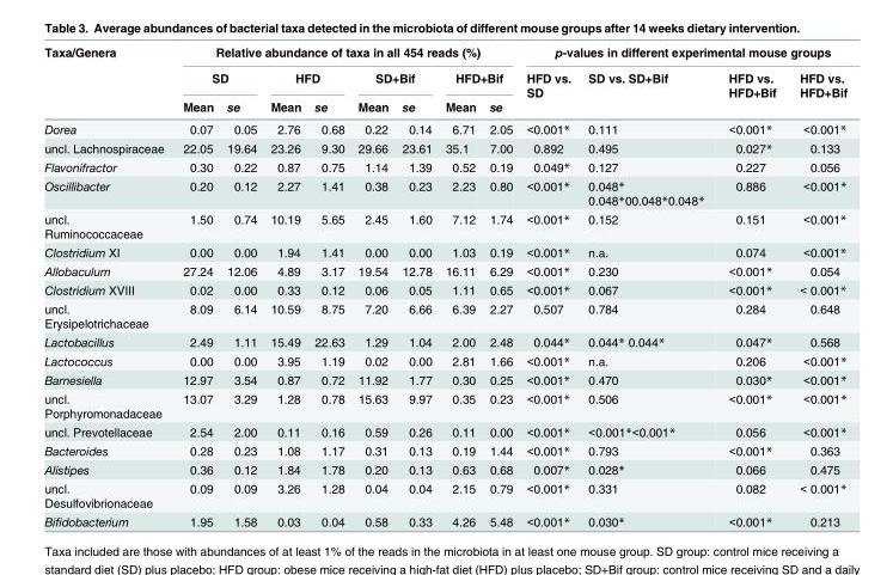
<table><thead><tr><td rowspan="3">Taxa/Genera</td><td colspan="8">Relative abundance of taxa in all 454 reads (%)</td><td colspan="4">p-values in different experimental mouse groups</td></tr><tr><td colspan="2">SD</td><td colspan="2">HFD</td><td colspan="2">SD+Bif</td><td colspan="2">HFD+Bif</td><td rowspan="2">HFD vs. SD</td><td rowspan="2">SD vs. SD+Bif</td><td rowspan="2">HFD vs. HFD+Bif</td><td rowspan="2">HFD vs. HFD+Bif</td></tr><tr><td>Mean</td><td>se</td><td>Mean</td><td>se</td><td>Mean</td><td>se</td><td>Mean</td><td>se</td></tr></thead><tbody><tr><td>Dorea</td><td>0.07</td><td>0.05</td><td>2.76</td><td>0.68</td><td>0.22</td><td>0.14</td><td>6.71</td><td>2.05</td><td>&lt;0.001*</td><td>0.111</td><td>&lt;0.001*</td><td>&lt;0.001*</td></tr><tr><td>uncl. Lachnospiraceae</td><td>22.05</td><td>19.64</td><td>23.26</td><td>9.30</td><td>29.66</td><td>23.61</td><td>35.1</td><td>7.00</td><td>0.892</td><td>0.495</td><td>0.027*</td><td>0.133</td></tr><tr><td>Flavonifractor</td><td>0.30</td><td>0.22</td><td>0.87</td><td>0.75</td><td>1.14</td><td>1.39</td><td>0.52</td><td>0.19</td><td>0.049*</td><td>0.127</td><td>0.227</td><td>0.056</td></tr><tr><td>Oscillibacter</td><td>0.20</td><td>0.12</td><td>2.27</td><td>1.41</td><td>0.38</td><td>0.23</td><td>2.23</td><td>0.80</td><td>&lt;0.001*</td><td>0.048* 0.048*00.048*0.048*</td><td>0.886</td><td>&lt;0.001*</td></tr><tr><td>uncl. Ruminococcaceae</td><td>1.50</td><td>0.74</td><td>10.19</td><td>5.65</td><td>2.45</td><td>1.60</td><td>7.12</td><td>1.74</td><td>&lt;0.001*</td><td>0.152</td><td>0.151</td><td>&lt;0.001*</td></tr><tr><td>Clostridium XI</td><td>0.00</td><td>0.00</td><td>1.94</td><td>1.41</td><td>0.00</td><td>0.00</td><td>1.03</td><td>0.19</td><td>&lt;0.001*</td><td>n.a.</td><td>0.074</td><td>&lt;0.001*</td></tr><tr><td>Allobaculum</td><td>27.24</td><td>12.06</td><td>4.89</td><td>3.17</td><td>19.54</td><td>12.78</td><td>16.11</td><td>6.29</td><td>&lt;0.001*</td><td>0.230</td><td>&lt;0.001*</td><td>0.054</td></tr><tr><td>Clostridium XVIII</td><td>0.02</td><td>0.00</td><td>0.33</td><td>0.12</td><td>0.06</td><td>0.05</td><td>1.11</td><td>0.65</td><td>&lt;0.001*</td><td>0.067</td><td>&lt;0.001*</td><td>&lt; 0.001*</td></tr><tr><td>uncl. Erysipelotrichaceae</td><td>8.09</td><td>6.14</td><td>10.59</td><td>8.75</td><td>7.20</td><td>6.66</td><td>6.39</td><td>2.27</td><td>0.507</td><td>0.784</td><td>0.284</td><td>0.648</td></tr><tr><td>Lactobacillus</td><td>2.49</td><td>1.11</td><td>15.49</td><td>22.63</td><td>1.29</td><td>1.04</td><td>2.00</td><td>2.48</td><td>0.044*</td><td>0.044* 0.044*</td><td>0.047*</td><td>0.568</td></tr><tr><td>Lactococcus</td><td>0.00</td><td>0.00</td><td>3.95</td><td>1.19</td><td>0.02</td><td>0.00</td><td>2.81</td><td>1.66</td><td>&lt;0.001*</td><td>n.a.</td><td>0.206</td><td>&lt;0.001*</td></tr><tr><td>Barnesiella</td><td>12.97</td><td>3.54</td><td>0.87</td><td>0.72</td><td>11.92</td><td>1.77</td><td>0.30</td><td>0.25</td><td>&lt;0.001*</td><td>0.470</td><td>0.030*</td><td>&lt;0.001*</td></tr><tr><td>uncl. Porphyromonadaceae</td><td>13.07</td><td>3.29</td><td>1.28</td><td>0.78</td><td>15.63</td><td>9.97</td><td>0.35</td><td>0.23</td><td>&lt;0.001*</td><td>0.506</td><td>&lt;0.001*</td><td>&lt;0.001*</td></tr><tr><td>uncl. Prevotellaceae</td><td>2.54</td><td>2.00</td><td>0.11</td><td>0.16</td><td>0.59</td><td>0.26</td><td>0.11</td><td>0.00</td><td>&lt;0.001*</td><td>&lt;0.001*&lt;0.001*</td><td>0.056</td><td>&lt;0.001*</td></tr><tr><td>Bacteroides</td><td>0.28</td><td>0.23</td><td>1.08</td><td>1.17</td><td>0.31</td><td>0.13</td><td>0.19</td><td>1.44</td><td>&lt;0.001*</td><td>0.793</td><td>&lt;0.001*</td><td>0.363</td></tr><tr><td>Alistipes</td><td>0.36</td><td>0.12</td><td>1.84</td><td>1.78</td><td>0.20</td><td>0.13</td><td>0.63</td><td>0.68</td><td>0.007*</td><td>0.028*</td><td>0.066</td><td>0.475</td></tr><tr><td>uncl. Desulfovibrionaceae</td><td>0.09</td><td>0.09</td><td>3.26</td><td>1.28</td><td>0.04</td><td>0.04</td><td>2.15</td><td>0.79</td><td>&lt;0.001*</td><td>0.331</td><td>0.082</td><td>&lt; 0.001*</td></tr><tr><td>Bifidobacterium</td><td>1.95</td><td>1.58</td><td>0.03</td><td>0.04</td><td>0.58</td><td>0.33</td><td>4.26</td><td>5.48</td><td>&lt;0.001*</td><td>0.030*</td><td>&lt;0.001*</td><td>0.213</td></tr></tbody></table>